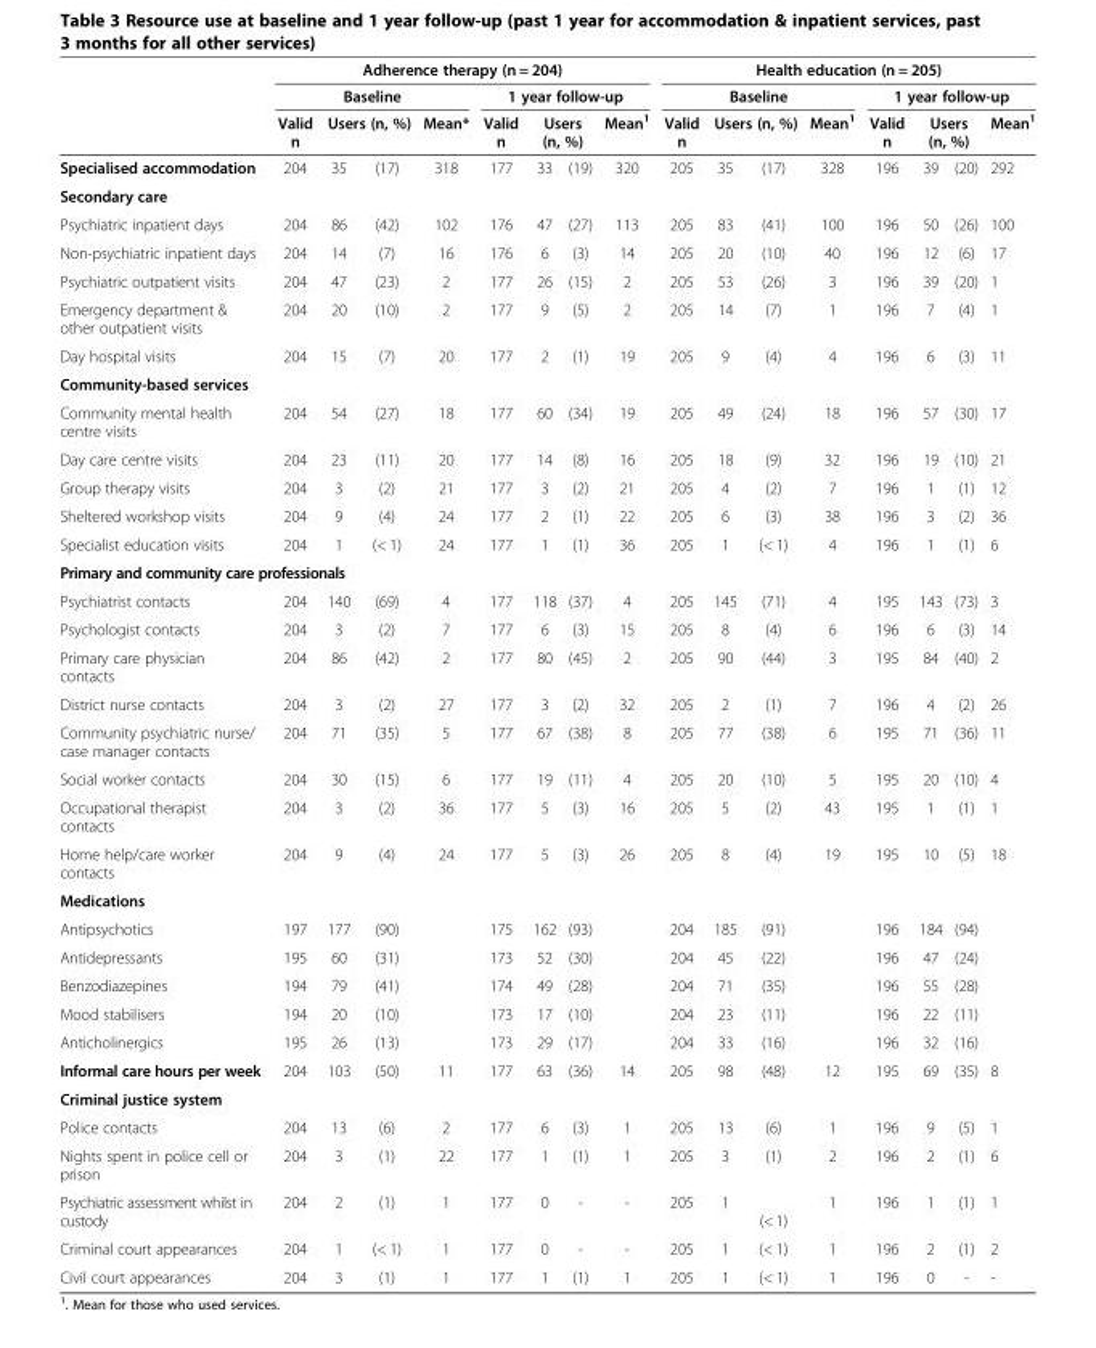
<table><thead><tr><td rowspan="4">Specialised accommodation</td><td colspan="8">Adherence therapy (n = 204)</td><td colspan="8">Health education (n = 205)</td></tr><tr><td colspan="4">Baseline</td><td colspan="4">1 year follow-up</td><td colspan="4">Baseline</td><td colspan="4">1 year follow-up</td></tr><tr><td rowspan="2">Valid n 204</td><td colspan="2">Users (n, %)</td><td rowspan="2">Mean* 318</td><td rowspan="2">Valid n 177</td><td colspan="2">Users (n, %)</td><td rowspan="2">Mean<sup>1</sup> 320</td><td rowspan="2">Valid n 205</td><td colspan="2">Users (n, %)</td><td rowspan="2">Mean<sup>1</sup> 328</td><td rowspan="2">Valid n 196</td><td colspan="2">Users (n, %)</td><td rowspan="2">Mean<sup>1</sup> 292</td></tr><tr><td>35</td><td>(17)</td><td>33</td><td>(19)</td><td>35</td><td>(17)</td><td>39</td><td>(20)</td></tr></thead><tbody><tr><td colspan="17">Secondary care</td></tr><tr><td>Psychiatric inpatient days</td><td>204</td><td>86</td><td>(42)</td><td>102</td><td>176</td><td>47</td><td>(27)</td><td>113</td><td>205</td><td>83</td><td>(41)</td><td>100</td><td>196</td><td>50</td><td>(26)</td><td>100</td></tr><tr><td>Non-psychiatric inpatient days</td><td>204</td><td>14</td><td>(7)</td><td>16</td><td>176</td><td>6</td><td>(3)</td><td>14</td><td>205</td><td>20</td><td>(10)</td><td>40</td><td>196</td><td>12</td><td>(6)</td><td>17</td></tr><tr><td>Psychiatric outpatient visits</td><td>204</td><td>47</td><td>(23)</td><td>2</td><td>177</td><td>26</td><td>(15)</td><td>2</td><td>205</td><td>53</td><td>(26)</td><td>3</td><td>196</td><td>39</td><td>(20)</td><td>1</td></tr><tr><td>Emergency department &amp; other outpatient visits</td><td>204</td><td>20</td><td>(10)</td><td>2</td><td>177</td><td>9</td><td>(5)</td><td>2</td><td>205</td><td>14</td><td>(7)</td><td>1</td><td>196</td><td>7</td><td>(4)</td><td>1</td></tr><tr><td>Day hospital visits</td><td>204</td><td>15</td><td>(7)</td><td>20</td><td>177</td><td>2</td><td>(1)</td><td>19</td><td>205</td><td>9</td><td>(4)</td><td>4</td><td>196</td><td>6</td><td>(3)</td><td>11</td></tr><tr><td colspan="17">Community-based services</td></tr><tr><td>Community mental health centre visits</td><td>204</td><td>54</td><td>(27)</td><td>18</td><td>177</td><td>60</td><td>(34)</td><td>19</td><td>205</td><td>49</td><td>(24)</td><td>18</td><td>196</td><td>57</td><td>(30)</td><td>17</td></tr><tr><td>Day care centre visits</td><td>204</td><td>23</td><td>(11)</td><td>20</td><td>177</td><td>14</td><td>(8)</td><td>16</td><td>205</td><td>18</td><td>(9)</td><td>32</td><td>196</td><td>19</td><td>(10)</td><td>21</td></tr><tr><td>Group therapy visits</td><td>204</td><td>3</td><td>(2)</td><td>21</td><td>177</td><td>3</td><td>(2)</td><td>21</td><td>205</td><td>4</td><td>(2)</td><td>7</td><td>196</td><td>1</td><td>(1)</td><td>12</td></tr><tr><td>Sheltered workshop visits</td><td>204</td><td>9</td><td>(4)</td><td>24</td><td>177</td><td>2</td><td>(1)</td><td>22</td><td>205</td><td>6</td><td>(3)</td><td>38</td><td>196</td><td>3</td><td>(2)</td><td>36</td></tr><tr><td>Specialist education visits</td><td>204</td><td>1</td><td>(&lt; 1)</td><td>24</td><td>177</td><td>1</td><td>(1)</td><td>36</td><td>205</td><td>1</td><td>(&lt; 1)</td><td>4</td><td>196</td><td>1</td><td>(1)</td><td>6</td></tr><tr><td colspan="17">Primary and community care professionals</td></tr><tr><td>Psychiatrist contacts</td><td>204</td><td>140</td><td>(69)</td><td>4</td><td>177</td><td>118</td><td>(37)</td><td>4</td><td>205</td><td>145</td><td>(71)</td><td>4</td><td>195</td><td>143</td><td>(73)</td><td>3</td></tr><tr><td>Psychologist contacts</td><td>204</td><td>3</td><td>(2)</td><td>7</td><td>177</td><td>6</td><td>(3)</td><td>15</td><td>205</td><td>8</td><td>(4)</td><td>6</td><td>196</td><td>6</td><td>(3)</td><td>14</td></tr><tr><td>Primary care physician contacts</td><td>204</td><td>86</td><td>(42)</td><td>2</td><td>177</td><td>80</td><td>(45)</td><td>2</td><td>205</td><td>90</td><td>(44)</td><td>3</td><td>195</td><td>84</td><td>(40)</td><td>2</td></tr><tr><td>District nurse contacts</td><td>204</td><td>3</td><td>(2)</td><td>27</td><td>177</td><td>3</td><td>(2)</td><td>32</td><td>205</td><td>2</td><td>(1)</td><td>7</td><td>196</td><td>4</td><td>(2)</td><td>26</td></tr><tr><td>Community psychiatric nurse/ case manager contacts</td><td>204</td><td>71</td><td>(35)</td><td>5</td><td>177</td><td>67</td><td>(38)</td><td>8</td><td>205</td><td>77</td><td>(38)</td><td>6</td><td>195</td><td>71</td><td>(36)</td><td>11</td></tr><tr><td>Social worker contacts</td><td>204</td><td>30</td><td>(15)</td><td>6</td><td>177</td><td>19</td><td>(11)</td><td>4</td><td>205</td><td>20</td><td>(10)</td><td>5</td><td>195</td><td>20</td><td>(10)</td><td>4</td></tr><tr><td>Occupational therapist contacts</td><td>204</td><td>3</td><td>(2)</td><td>36</td><td>177</td><td>5</td><td>(3)</td><td>16</td><td>205</td><td>5</td><td>(2)</td><td>43</td><td>195</td><td>1</td><td>(1)</td><td>1</td></tr><tr><td>Home help/care worker contacts</td><td>204</td><td>9</td><td>(4)</td><td>24</td><td>177</td><td>5</td><td>(3)</td><td>26</td><td>205</td><td>8</td><td>(4)</td><td>19</td><td>195</td><td>10</td><td>(5)</td><td>18</td></tr><tr><td colspan="17">Medications</td></tr><tr><td>Antipsychotics</td><td>197</td><td>177</td><td>(90)</td><td></td><td>175</td><td>162</td><td>(93)</td><td></td><td>204</td><td>185</td><td>(91)</td><td></td><td>196</td><td>184</td><td>(94)</td><td></td></tr><tr><td>Antidepressants</td><td>195</td><td>60</td><td>(31)</td><td></td><td>173</td><td>52</td><td>(30)</td><td></td><td>204</td><td>45</td><td>(22)</td><td></td><td>196</td><td>47</td><td>(24)</td><td></td></tr><tr><td>Benzodiazepines</td><td>194</td><td>79</td><td>(41)</td><td></td><td>174</td><td>49</td><td>(28)</td><td></td><td>204</td><td>71</td><td>(35)</td><td></td><td>196</td><td>55</td><td>(28)</td><td></td></tr><tr><td>Mood stabilisers</td><td>194</td><td>20</td><td>(10)</td><td></td><td>173</td><td>17</td><td>(10)</td><td></td><td>204</td><td>23</td><td>(11)</td><td></td><td>196</td><td>22</td><td>(11)</td><td></td></tr><tr><td>Anticholinergics</td><td>195</td><td>26</td><td>(13)</td><td></td><td>173</td><td>29</td><td>(17)</td><td></td><td>204</td><td>33</td><td>(16)</td><td></td><td>196</td><td>32</td><td>(16)</td><td></td></tr><tr><td>Informal care hours per week</td><td>204</td><td>103</td><td>(50)</td><td>11</td><td>177</td><td>63</td><td>(36)</td><td>14</td><td>205</td><td>98</td><td>(48)</td><td>12</td><td>195</td><td>69</td><td>(35)</td><td>8</td></tr><tr><td colspan="17">Criminal justice system</td></tr><tr><td>Police contacts</td><td>204</td><td>13</td><td>(6)</td><td>2</td><td>177</td><td>6</td><td>(3)</td><td>1</td><td>205</td><td>13</td><td>(6)</td><td>1</td><td>196</td><td>9</td><td>(5)</td><td>1</td></tr><tr><td>Nights spent in police cell or prison</td><td>204</td><td>3</td><td>(1)</td><td>22</td><td>177</td><td>1</td><td>(1)</td><td>1</td><td>205</td><td>3</td><td>(1)</td><td>2</td><td>196</td><td>2</td><td>(1)</td><td>6</td></tr><tr><td>Psychiatric assessment whilst in custody</td><td>204</td><td>2</td><td>(1)</td><td>1</td><td>177</td><td>0</td><td>-</td><td>-</td><td>205</td><td>1</td><td>(&lt; 1)</td><td>1</td><td>196</td><td>1</td><td>(1)</td><td>1</td></tr><tr><td>Criminal court appearances</td><td>204</td><td>1</td><td>(&lt; 1)</td><td>1</td><td>177</td><td>0</td><td>-</td><td>-</td><td>205</td><td>1</td><td>(&lt; 1)</td><td>1</td><td>196</td><td>2</td><td>(1)</td><td>2</td></tr><tr><td>Civil court appearances</td><td>204</td><td>3</td><td>(1)</td><td>1</td><td>177</td><td>1</td><td>(1)</td><td>1</td><td>205</td><td>1</td><td>(&lt; 1)</td><td>1</td><td>196</td><td>0</td><td>-</td><td>-</td></tr></tbody></table>